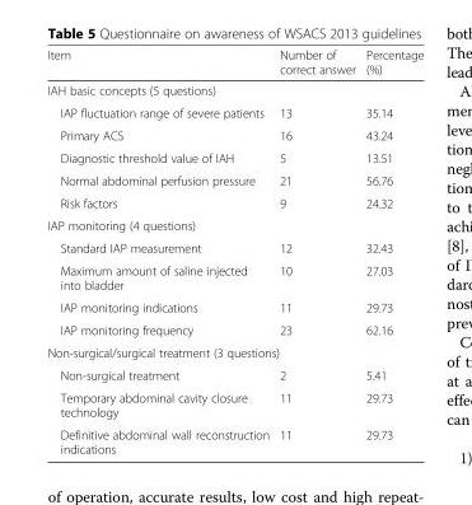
<table><thead><tr><td>Item</td><td>Number of correct answer</td><td>Percentage (%)</td></tr></thead><tbody><tr><td colspan="3">IAH basic concepts (5 questions)</td></tr><tr><td>IAP fluctuation range of severe patients</td><td>13</td><td>35.14</td></tr><tr><td>Primary ACS</td><td>16</td><td>43.24</td></tr><tr><td>Diagnostic threshold value of IAH</td><td>5</td><td>13.51</td></tr><tr><td>Normal abdominal perfusion pressure</td><td>21</td><td>56.76</td></tr><tr><td>Risk factors</td><td>9</td><td>24.32</td></tr><tr><td colspan="3">IAP monitoring (4 questions)</td></tr><tr><td>Standard IAP measurement</td><td>12</td><td>32.43</td></tr><tr><td>Maximum amount of saline injected into bladder</td><td>10</td><td>27.03</td></tr><tr><td>IAP monitoring indications</td><td>11</td><td>29.73</td></tr><tr><td>IAP monitoring frequency</td><td>23</td><td>62.16</td></tr><tr><td colspan="3">Non-surgical/surgical treatment (3 questions)</td></tr><tr><td>Non-surgical treatment</td><td>2</td><td>5.41</td></tr><tr><td>Temporary abdominal cavity closure technology</td><td>11</td><td>29.73</td></tr><tr><td>Definitive abdominal wall reconstruction indications</td><td>11</td><td>29.73</td></tr></tbody></table>